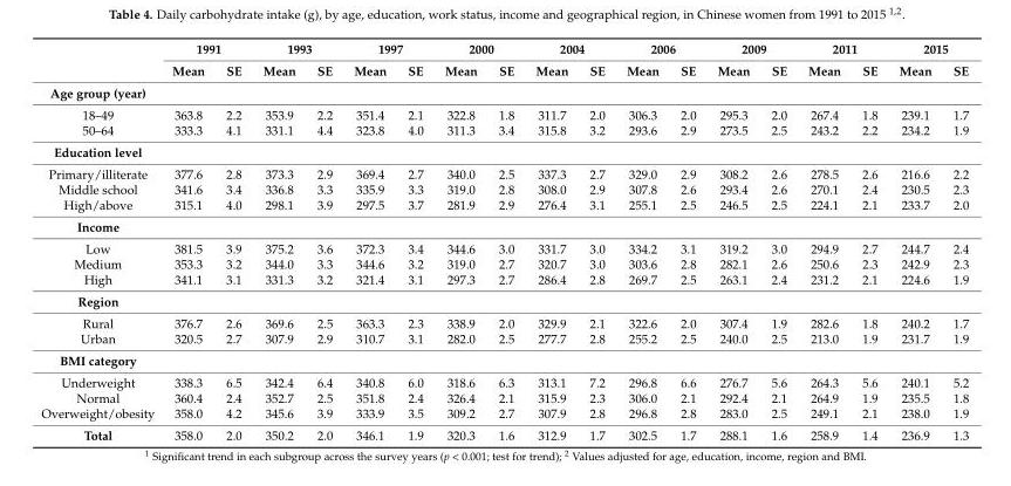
<table><thead><tr><td rowspan="2"></td><td colspan="2">1991</td><td colspan="2">1993</td><td colspan="2">1997</td><td colspan="2">2000</td><td colspan="2">2004</td><td colspan="2">2006</td><td colspan="2">2009</td><td colspan="2">2011</td><td colspan="2">2015</td></tr><tr><td>Mean</td><td>SE</td><td>Mean</td><td>SE</td><td>Mean</td><td>SE</td><td>Mean</td><td>SE</td><td>Mean</td><td>SE</td><td>Mean</td><td>SE</td><td>Mean</td><td>SE</td><td>Mean</td><td>SE</td><td>Mean</td><td>SE</td></tr></thead><tbody><tr><td colspan="19">Age group (year)</td></tr><tr><td>18–49</td><td>363.8</td><td>2.2</td><td>353.9</td><td>2.2</td><td>351.4</td><td>2.1</td><td>322.8</td><td>1.8</td><td>311.7</td><td>2.0</td><td>306.3</td><td>2.0</td><td>295.3</td><td>2.0</td><td>267.4</td><td>1.8</td><td>239.1</td><td>1.7</td></tr><tr><td>50–64</td><td>333.3</td><td>4.1</td><td>331.1</td><td>4.4</td><td>323.8</td><td>4.0</td><td>311.3</td><td>3.4</td><td>315.8</td><td>3.2</td><td>293.6</td><td>2.9</td><td>273.5</td><td>2.5</td><td>243.2</td><td>2.2</td><td>234.2</td><td>1.9</td></tr><tr><td colspan="19">Education level</td></tr><tr><td>Primary/illiterate</td><td>377.6</td><td>2.8</td><td>373.3</td><td>2.9</td><td>369.4</td><td>2.7</td><td>340.0</td><td>2.5</td><td>337.3</td><td>2.7</td><td>329.0</td><td>2.9</td><td>308.2</td><td>2.6</td><td>278.5</td><td>2.6</td><td>216.6</td><td>2.2</td></tr><tr><td>Middle school</td><td>341.6</td><td>3.4</td><td>336.8</td><td>3.3</td><td>335.9</td><td>3.3</td><td>319.0</td><td>2.8</td><td>308.0</td><td>2.9</td><td>307.8</td><td>2.6</td><td>293.4</td><td>2.6</td><td>270.1</td><td>2.4</td><td>230.5</td><td>2.3</td></tr><tr><td>High/above</td><td>315.1</td><td>4.0</td><td>298.1</td><td>3.9</td><td>297.5</td><td>3.7</td><td>281.9</td><td>2.9</td><td>276.4</td><td>3.1</td><td>255.1</td><td>2.5</td><td>246.5</td><td>2.5</td><td>224.1</td><td>2.1</td><td>233.7</td><td>2.0</td></tr><tr><td colspan="19">Income</td></tr><tr><td>Low</td><td>381.5</td><td>3.9</td><td>375.2</td><td>3.6</td><td>372.3</td><td>3.4</td><td>344.6</td><td>3.0</td><td>331.7</td><td>3.0</td><td>334.2</td><td>3.1</td><td>319.2</td><td>3.0</td><td>294.9</td><td>2.7</td><td>244.7</td><td>2.4</td></tr><tr><td>Medium</td><td>353.3</td><td>3.2</td><td>344.0</td><td>3.3</td><td>344.6</td><td>3.2</td><td>319.0</td><td>2.7</td><td>320.7</td><td>3.0</td><td>303.6</td><td>2.8</td><td>282.1</td><td>2.6</td><td>250.6</td><td>2.3</td><td>242.9</td><td>2.3</td></tr><tr><td>High</td><td>341.1</td><td>3.1</td><td>331.3</td><td>3.2</td><td>321.4</td><td>3.1</td><td>297.3</td><td>2.7</td><td>286.4</td><td>2.8</td><td>269.7</td><td>2.5</td><td>263.1</td><td>2.4</td><td>231.2</td><td>2.1</td><td>224.6</td><td>1.9</td></tr><tr><td colspan="19">Region</td></tr><tr><td>Rural</td><td>376.7</td><td>2.6</td><td>369.6</td><td>2.5</td><td>363.3</td><td>2.3</td><td>338.9</td><td>2.0</td><td>329.9</td><td>2.1</td><td>322.6</td><td>2.0</td><td>307.4</td><td>1.9</td><td>282.6</td><td>1.8</td><td>240.2</td><td>1.7</td></tr><tr><td>Urban</td><td>320.5</td><td>2.7</td><td>307.9</td><td>2.9</td><td>310.7</td><td>3.1</td><td>282.0</td><td>2.5</td><td>277.7</td><td>2.8</td><td>255.2</td><td>2.5</td><td>240.0</td><td>2.5</td><td>213.0</td><td>1.9</td><td>231.7</td><td>1.9</td></tr><tr><td colspan="19">BMI category</td></tr><tr><td>Underweight</td><td>338.3</td><td>6.5</td><td>342.4</td><td>6.4</td><td>340.8</td><td>6.0</td><td>318.6</td><td>6.3</td><td>313.1</td><td>7.2</td><td>296.8</td><td>6.6</td><td>276.7</td><td>5.6</td><td>264.3</td><td>5.6</td><td>240.1</td><td>5.2</td></tr><tr><td>Normal</td><td>360.4</td><td>2.4</td><td>352.7</td><td>2.5</td><td>351.8</td><td>2.4</td><td>326.4</td><td>2.1</td><td>315.9</td><td>2.3</td><td>306.0</td><td>2.1</td><td>292.4</td><td>2.1</td><td>264.9</td><td>1.9</td><td>235.5</td><td>1.8</td></tr><tr><td>Overweight/obesity</td><td>358.0</td><td>4.2</td><td>345.6</td><td>3.9</td><td>333.9</td><td>3.5</td><td>309.2</td><td>2.7</td><td>307.9</td><td>2.8</td><td>296.8</td><td>2.8</td><td>283.0</td><td>2.5</td><td>249.1</td><td>2.1</td><td>238.0</td><td>1.9</td></tr><tr><td>Total</td><td>358.0</td><td>2.0</td><td>350.2</td><td>2.0</td><td>346.1</td><td>1.9</td><td>320.3</td><td>1.6</td><td>312.9</td><td>1.7</td><td>302.5</td><td>1.7</td><td>288.1</td><td>1.6</td><td>258.9</td><td>1.4</td><td>236.9</td><td>1.3</td></tr></tbody></table>